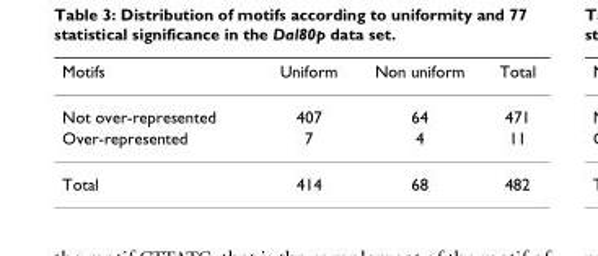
<table><thead><tr><td>Motifs</td><td>Uniform</td><td>Non uniform</td><td>Total</td></tr></thead><tbody><tr><td>Not over-represented</td><td>407</td><td>64</td><td>471</td></tr><tr><td>Over-represented</td><td>7</td><td>4</td><td>11</td></tr><tr><td>Total</td><td>414</td><td>68</td><td>482</td></tr></tbody></table>